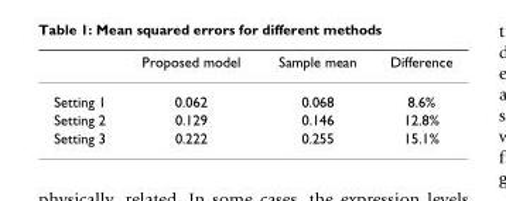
<table><thead><tr><td></td><td>Proposed model</td><td>Sample mean</td><td>Difference</td></tr></thead><tbody><tr><td>Setting 1</td><td>0.062</td><td>0.068</td><td>8.6%</td></tr><tr><td>Setting 2</td><td>0.129</td><td>0.146</td><td>12.8%</td></tr><tr><td>Setting 3</td><td>0.222</td><td>0.255</td><td>15.1%</td></tr></tbody></table>